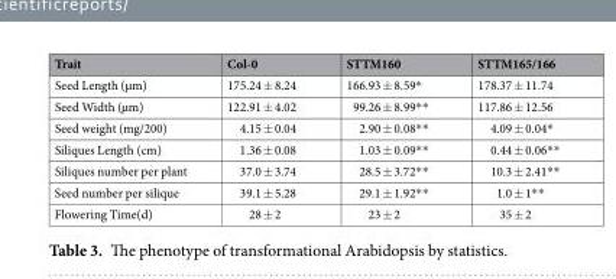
<table><thead><tr><td>Trait</td><td>Col-0</td><td>STTM160</td><td>STTM165/166</td></tr></thead><tbody><tr><td>Seed Length (µm)</td><td>175.24 ± 8.24</td><td>166.93 ± 8.59*</td><td>178.37 ± 11.74</td></tr><tr><td>Seed Width (µm)</td><td>122.91 ± 4.02</td><td>99.26 ± 8.99**</td><td>117.86 ± 12.56</td></tr><tr><td>Seed weight (mg/200)</td><td>4.15 ± 0.04</td><td>2.90 ± 0.08**</td><td>4.09 ± 0.04*</td></tr><tr><td>Siliques Length (cm)</td><td>1.36 ± 0.08</td><td>1.03 ± 0.09**</td><td>0.44 ± 0.06**</td></tr><tr><td>Siliques number per plant</td><td>37.0 ± 3.74</td><td>28.5 ± 3.72**</td><td>10.3 ± 2.41**</td></tr><tr><td>Seed number per silique</td><td>39.1 ± 5.28</td><td>29.1 ± 1.92**</td><td>1.0 ± 1**</td></tr><tr><td>Flowering Time(d)</td><td>28 ± 2</td><td>23 ± 2</td><td>35 ± 2</td></tr></tbody></table>